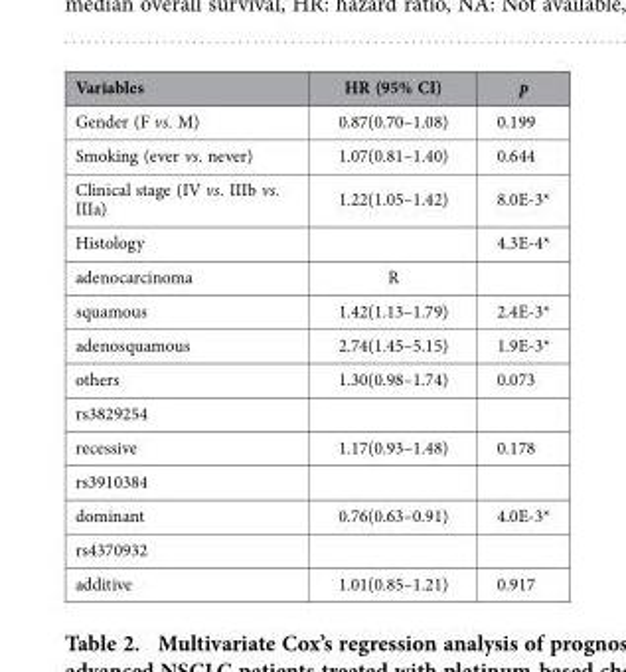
<table><thead><tr><td>Variables</td><td>HR (95% CI)</td><td>p</td></tr></thead><tbody><tr><td>Gender (F vs. M)</td><td>0.87(0.70–1.08)</td><td>0.199</td></tr><tr><td>Smoking (ever vs. never)</td><td>1.07(0.81–1.40)</td><td>0.644</td></tr><tr><td>Clinical stage (IV vs. IIIb vs. IIIa)</td><td>1.22(1.05–1.42)</td><td>8.0E-3*</td></tr><tr><td>Histology</td><td></td><td>4.3E-4*</td></tr><tr><td>adenocarcinoma</td><td>R</td><td></td></tr><tr><td>squamous</td><td>1.42(1.13–1.79)</td><td>2.4E-3*</td></tr><tr><td>adenosquamous</td><td>2.74(1.45–5.15)</td><td>1.9E-3*</td></tr><tr><td>others</td><td>1.30(0.98–1.74)</td><td>0.073</td></tr><tr><td colspan="3">rs3829254</td></tr><tr><td>recessive</td><td>1.17(0.93–1.48)</td><td>0.178</td></tr><tr><td colspan="3">rs3910384</td></tr><tr><td>dominant</td><td>0.76(0.63–0.91)</td><td>4.0E-3*</td></tr><tr><td colspan="3">rs4370932</td></tr><tr><td>additive</td><td>1.01(0.85–1.21)</td><td>0.917</td></tr></tbody></table>